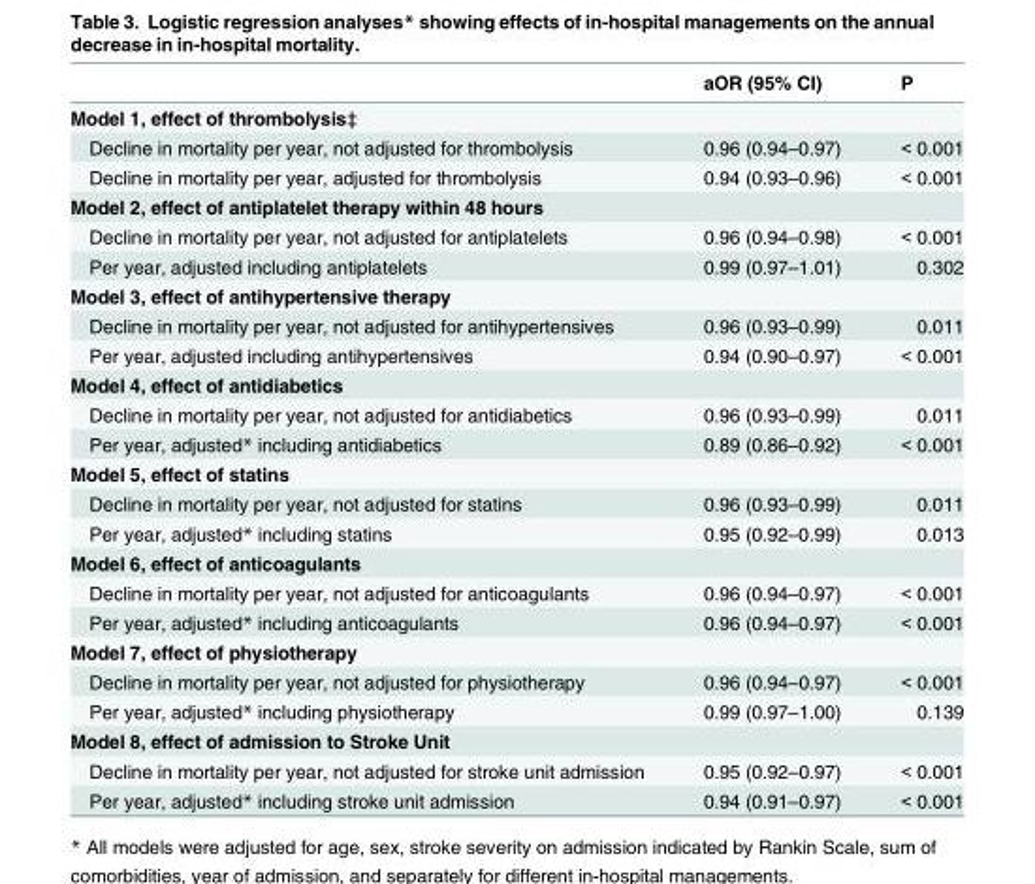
<table><thead><tr><td></td><td>aOR (95% CI)</td><td>P</td></tr></thead><tbody><tr><td colspan="3">Model 1, effect of thrombolysis‡</td></tr><tr><td>Decline in mortality per year, not adjusted for thrombolysis</td><td>0.96 (0.94–0.97)</td><td>&lt; 0.001</td></tr><tr><td>Decline in mortality per year, adjusted for thrombolysis</td><td>0.94 (0.93–0.96)</td><td>&lt; 0.001</td></tr><tr><td colspan="3">Model 2, effect of antiplatelet therapy within 48 hours</td></tr><tr><td>Decline in mortality per year, not adjusted for antiplatelets</td><td>0.96 (0.94–0.98)</td><td>&lt; 0.001</td></tr><tr><td>Per year, adjusted including antiplatelets</td><td>0.99 (0.97–1.01)</td><td>0.302</td></tr><tr><td colspan="3">Model 3, effect of antihypertensive therapy</td></tr><tr><td>Decline in mortality per year, not adjusted for antihypertensives</td><td>0.96 (0.93–0.99)</td><td>0.011</td></tr><tr><td>Per year, adjusted including antihypertensives</td><td>0.94 (0.90–0.97)</td><td>&lt; 0.001</td></tr><tr><td colspan="3">Model 4, effect of antidiabetics</td></tr><tr><td>Decline in mortality per year, not adjusted for antidiabetics</td><td>0.96 (0.93–0.99)</td><td>0.011</td></tr><tr><td>Per year, adjusted* including antidiabetics</td><td>0.89 (0.86–0.92)</td><td>&lt; 0.001</td></tr><tr><td colspan="3">Model 5, effect of statins</td></tr><tr><td>Decline in mortality per year, not adjusted for statins</td><td>0.96 (0.93–0.99)</td><td>0.011</td></tr><tr><td>Per year, adjusted* including statins</td><td>0.95 (0.92–0.99)</td><td>0.013</td></tr><tr><td colspan="3">Model 6, effect of anticoagulants</td></tr><tr><td>Decline in mortality per year, not adjusted for anticoagulants</td><td>0.96 (0.94–0.97)</td><td>&lt; 0.001</td></tr><tr><td>Per year, adjusted* including anticoagulants</td><td>0.96 (0.94–0.97)</td><td>&lt; 0.001</td></tr><tr><td colspan="3">Model 7, effect of physiotherapy</td></tr><tr><td>Decline in mortality per year, not adjusted for physiotherapy</td><td>0.96 (0.94–0.97)</td><td>&lt; 0.001</td></tr><tr><td>Per year, adjusted* including physiotherapy</td><td>0.99 (0.97–1.00)</td><td>0.139</td></tr><tr><td colspan="3">Model 8, effect of admission to Stroke Unit</td></tr><tr><td>Decline in mortality per year, not adjusted for stroke unit admission</td><td>0.95 (0.92–0.97)</td><td>&lt; 0.001</td></tr><tr><td>Per year, adjusted* including stroke unit admission</td><td>0.94 (0.91–0.97)</td><td>&lt; 0.001</td></tr></tbody></table>